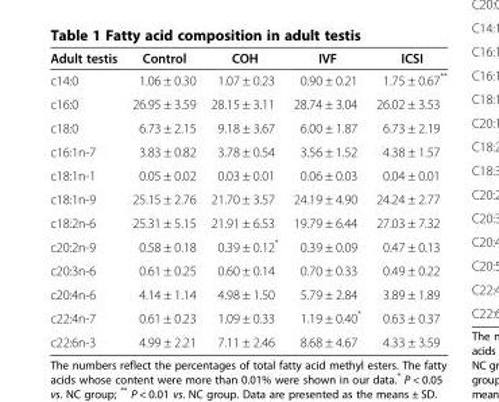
<table><thead><tr><td>Adult testis</td><td>Control</td><td>COH</td><td>IVF</td><td>ICSI</td></tr></thead><tbody><tr><td>c14:0</td><td>1.06 ± 0.30</td><td>1.07 ± 0.23</td><td>0.90 ± 0.21</td><td>1.75 ± 0.67**</td></tr><tr><td>c16:0</td><td>26.95 ± 3.59</td><td>28.15 ± 3.11</td><td>28.74 ± 3.04</td><td>26.02 ± 3.53</td></tr><tr><td>c18:0</td><td>6.73 ± 2.15</td><td>9.18 ± 3.67</td><td>6.00 ± 1.87</td><td>6.73 ± 2.19</td></tr><tr><td>c16:1n-7</td><td>3.83 ± 0.82</td><td>3.78 ± 0.54</td><td>3.56 ± 1.52</td><td>4.38 ± 1.57</td></tr><tr><td>c18:1n-1</td><td>0.05 ± 0.02</td><td>0.03 ± 0.01</td><td>0.06 ± 0.03</td><td>0.04 ± 0.01</td></tr><tr><td>c18:1n-9</td><td>25.15 ± 2.76</td><td>21.70 ± 3.57</td><td>24.19 ± 4.90</td><td>24.24 ± 2.77</td></tr><tr><td>c18:2n-6</td><td>25.31 ± 5.15</td><td>21.91 ± 6.53</td><td>19.79 ± 6.44</td><td>27.03 ± 7.32</td></tr><tr><td>c20:2n-9</td><td>0.58 ± 0.18</td><td>0.39 ± 0.12*</td><td>0.39 ± 0.09</td><td>0.47 ± 0.13</td></tr><tr><td>c20:3n-6</td><td>0.61 ± 0.25</td><td>0.60 ± 0.14</td><td>0.70 ± 0.33</td><td>0.49 ± 0.22</td></tr><tr><td>c20:4n-6</td><td>4.14 ± 1.14</td><td>4.98 ± 1.50</td><td>5.79 ± 2.84</td><td>3.89 ± 1.89</td></tr><tr><td>c22:4n-7</td><td>0.61 ± 0.23</td><td>1.09 ± 0.33</td><td>1.19 ± 0.40*</td><td>0.63 ± 0.37</td></tr><tr><td>c22:6n-3</td><td>4.99 ± 2.21</td><td>7.11 ± 2.46</td><td>8.68 ± 4.67</td><td>4.33 ± 3.59</td></tr></tbody></table>